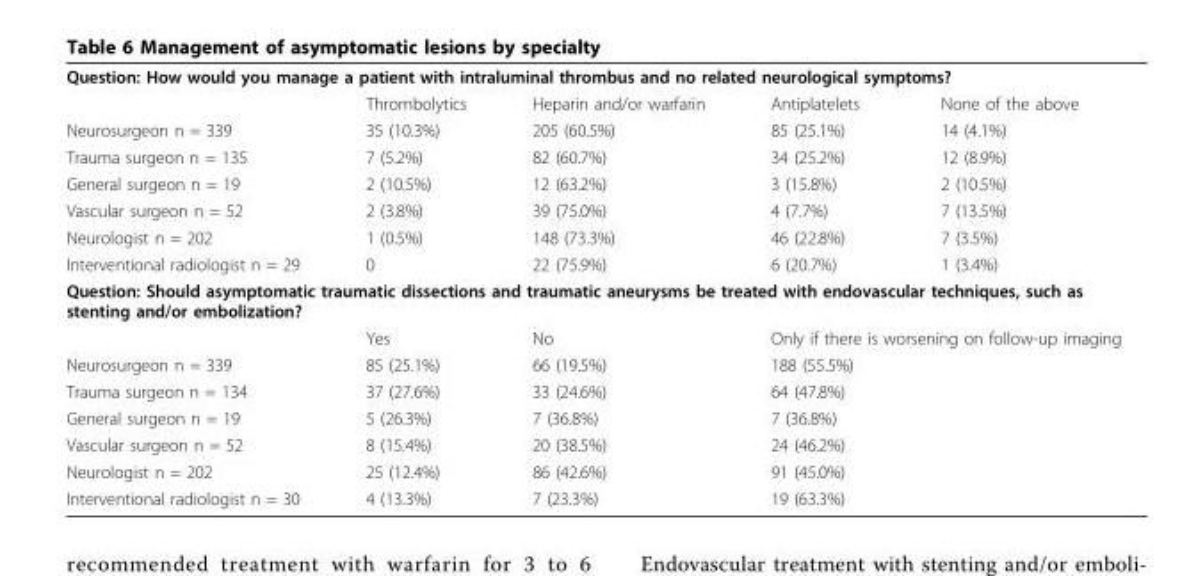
<table><tbody><tr><td colspan="5">Question: How would you manage a patient with intraluminal thrombus and no related neurological symptoms?</td></tr><tr><td></td><td>Thrombolytics</td><td>Heparin and/or warfarin</td><td>Antiplatelets</td><td>None of the above</td></tr><tr><td>Neurosurgeon n = 339</td><td>35 (10.3%)</td><td>205 (60.5%)</td><td>85 (25.1%)</td><td>14 (4.1%)</td></tr><tr><td>Trauma surgeon n = 135</td><td>7 (5.2%)</td><td>82 (60.7%)</td><td>34 (25.2%)</td><td>12 (8.9%)</td></tr><tr><td>General surgeon n = 19</td><td>2 (10.5%)</td><td>12 (63.2%)</td><td>3 (15.8%)</td><td>2 (10.5%)</td></tr><tr><td>Vascular surgeon n = 52</td><td>2 (3.8%)</td><td>39 (75.0%)</td><td>4 (7.7%)</td><td>7 (13.5%)</td></tr><tr><td>Neurologist n = 202</td><td>1 (0.5%)</td><td>148 (73.3%)</td><td>46 (22.8%)</td><td>7 (3.5%)</td></tr><tr><td>Interventional radiologist n = 29</td><td>0</td><td>22 (75.9%)</td><td>6 (20.7%)</td><td>1 (3.4%)</td></tr><tr><td colspan="5">Question: Should asymptomatic traumatic dissections and traumatic aneurysms be treated with endovascular techniques, such as stenting and/or embolization?</td></tr><tr><td></td><td>Yes</td><td>No</td><td colspan="2">Only if there is worsening on follow-up imaging</td></tr><tr><td>Neurosurgeon n = 339</td><td>85 (25.1%)</td><td>66 (19.5%)</td><td colspan="2">188 (55.5%)</td></tr><tr><td>Trauma surgeon n = 134</td><td>37 (27.6%)</td><td>33 (24.6%)</td><td colspan="2">64 (47.8%)</td></tr><tr><td>General surgeon n = 19</td><td>5 (26.3%)</td><td>7 (36.8%)</td><td colspan="2">7 (36.8%)</td></tr><tr><td>Vascular surgeon n = 52</td><td>8 (15.4%)</td><td>20 (38.5%)</td><td colspan="2">24 (46.2%)</td></tr><tr><td>Neurologist n = 202</td><td>25 (12.4%)</td><td>86 (42.6%)</td><td colspan="2">91 (45.0%)</td></tr><tr><td>Interventional radiologist n = 30</td><td>4 (13.3%)</td><td>7 (23.3%)</td><td colspan="2">19 (63.3%)</td></tr></tbody></table>